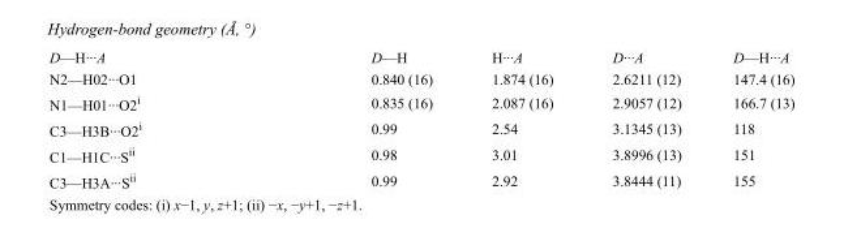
<table><tbody><tr><td>D—H···A</td><td>D—H</td><td>H···A</td><td>D···A</td><td>D—H···A</td></tr><tr><td>N2—H02···O1</td><td>0.840 (16)</td><td>1.874 (16)</td><td>2.6211 (12)</td><td>147.4 (16)</td></tr><tr><td>N1—H01···O2<sup>i</sup></td><td>0.835 (16)</td><td>2.087 (16)</td><td>2.9057 (12)</td><td>166.7 (13)</td></tr><tr><td>C3—H3B···O2<sup>i</sup></td><td>0.99</td><td>2.54</td><td>3.1345 (13)</td><td>118</td></tr><tr><td>C1—H1C···S<sup>ii</sup></td><td>0.98</td><td>3.01</td><td>3.8996 (13)</td><td>151</td></tr><tr><td>C3—H3A···S<sup>ii</sup></td><td>0.99</td><td>2.92</td><td>3.8444 (11)</td><td>155</td></tr></tbody></table>